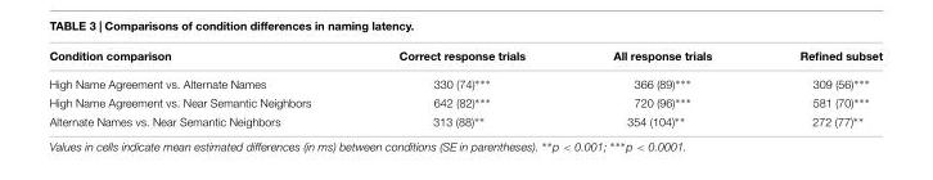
<table><thead><tr><td>Condition comparison</td><td>Correct response trials</td><td>All response trials</td><td>Refined subset</td></tr></thead><tbody><tr><td>High Name Agreement vs. Alternate Names</td><td>330 (74)∗∗∗</td><td>366 (89)∗∗∗</td><td>309 (56)∗∗∗</td></tr><tr><td>High Name Agreement vs. Near Semantic Neighbors</td><td>642 (82)∗∗∗</td><td>720 (96)∗∗∗</td><td>581 (70)∗∗∗</td></tr><tr><td>Alternate Names vs. Near Semantic Neighbors</td><td>313 (88)∗∗</td><td>354 (104)∗∗</td><td>272 (77)∗∗</td></tr></tbody></table>